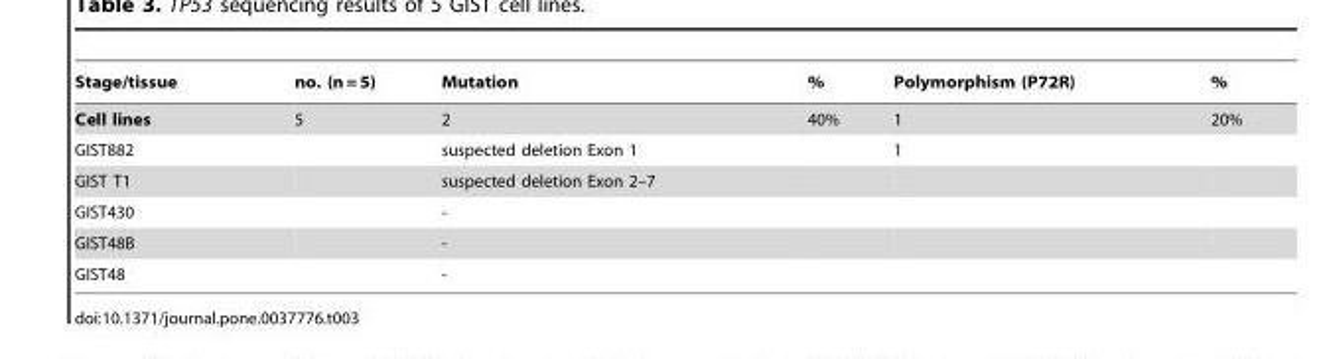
<table><thead><tr><td>Stage/tissue</td><td>no. (n = 5)</td><td>Mutation</td><td>%</td><td>Polymorphism (P72R)</td><td>%</td></tr></thead><tbody><tr><td>Cell lines</td><td>5</td><td>2</td><td>40%</td><td>1</td><td>20%</td></tr><tr><td>GIST882</td><td></td><td>suspected deletion Exon 1</td><td></td><td>1</td><td></td></tr><tr><td>GIST T1</td><td></td><td>suspected deletion Exon 2–7</td><td></td><td></td><td></td></tr><tr><td>GIST430</td><td></td><td>-</td><td></td><td></td><td></td></tr><tr><td>GIST48B</td><td></td><td>-</td><td></td><td></td><td></td></tr><tr><td>GIST48</td><td></td><td>-</td><td></td><td></td><td></td></tr></tbody></table>